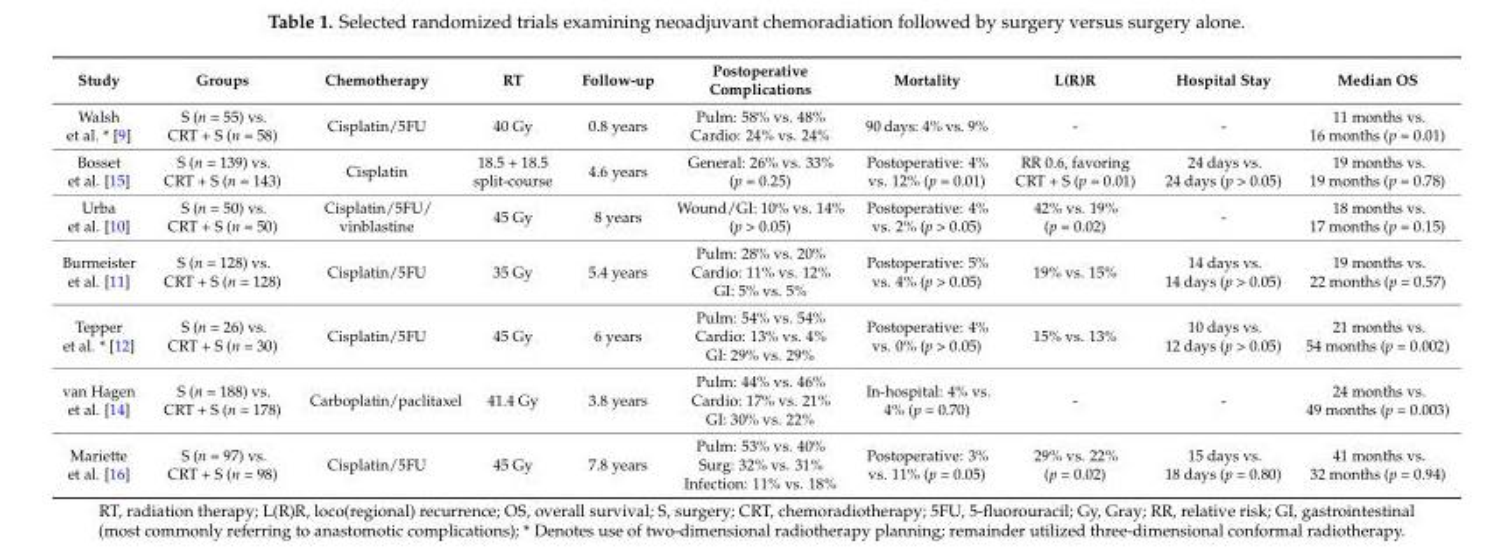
<table><thead><tr><td>Study</td><td>Groups</td><td>Chemotherapy</td><td>RT</td><td>Follow-up</td><td>Postoperative Complications</td><td>Mortality</td><td>L(R)R</td><td>Hospital Stay</td><td>Median OS</td></tr></thead><tbody><tr><td>Walsh et al. * [9]</td><td>S (n = 55) vs. CRT + S (n = 58)</td><td>Cisplatin/5FU</td><td>40 Gy</td><td>0.8 years</td><td>Pulm: 58% vs. 48% Cardio: 24% vs. 24%</td><td>90 days: 4% vs. 9%</td><td>-</td><td>-</td><td>11 months vs. 16 months (p = 0.01)</td></tr><tr><td>Bosset et al. [15]</td><td>S (n = 139) vs. CRT + S (n = 143)</td><td>Cisplatin</td><td>18.5 + 18.5 split-course</td><td>4.6 years</td><td>General: 26% vs. 33% (p = 0.25)</td><td>Postoperative: 4% vs. 12% (p = 0.01)</td><td>RR 0.6, favoring CRT + S (p = 0.01)</td><td>24 days vs. 24 days (p &gt; 0.05)</td><td>19 months vs. 19 months (p = 0.78)</td></tr><tr><td>Urba et al. [10]</td><td>S (n = 50) vs. CRT + S (n = 50)</td><td>Cisplatin/5FU/ vinblastine</td><td>45 Gy</td><td>8 years</td><td>Wound/GI: 10% vs. 14% (p &gt; 0.05)</td><td>Postoperative: 4% vs. 2% (p &gt; 0.05)</td><td>42% vs. 19% (p = 0.02)</td><td>-</td><td>18 months vs. 17 months (p = 0.15)</td></tr><tr><td>Burmeister et al. [11]</td><td>S (n = 128) vs. CRT + S (n = 128)</td><td>Cisplatin/5FU</td><td>35 Gy</td><td>5.4 years</td><td>Pulm: 28% vs. 20% Cardio: 11% vs. 12% GI: 5% vs. 5%</td><td>Postoperative: 5% vs. 4% (p &gt; 0.05)</td><td>19% vs. 15%</td><td>14 days vs. 14 days (p &gt; 0.05)</td><td>19 months vs. 22 months (p = 0.57)</td></tr><tr><td>Tepper et al. * [12]</td><td>S (n = 26) vs. CRT + S (n = 30)</td><td>Cisplatin/5FU</td><td>45 Gy</td><td>6 years</td><td>Pulm: 54% vs. 54% Cardio: 13% vs. 4% GI: 29% vs. 29%</td><td>Postoperative: 4% vs. 0% (p &gt; 0.05)</td><td>15% vs. 13%</td><td>10 days vs. 12 days (p &gt; 0.05)</td><td>21 months vs. 54 months (p = 0.002)</td></tr><tr><td>van Hagen et al. [14]</td><td>S (n = 188) vs. CRT + S (n = 178)</td><td>Carboplatin/paclitaxel</td><td>41.4 Gy</td><td>3.8 years</td><td>Pulm: 44% vs. 46% Cardio: 17% vs. 21% GI: 30% vs. 22%</td><td>In-hospital: 4% vs. 4% (p = 0.70)</td><td>-</td><td>-</td><td>24 months vs. 49 months (p = 0.003)</td></tr><tr><td>Mariette et al. [16]</td><td>S (n = 97) vs. CRT + S (n = 98)</td><td>Cisplatin/5FU</td><td>45 Gy</td><td>7.8 years</td><td>Pulm: 53% vs. 40% Surg: 32% vs. 31% Infection: 11% vs. 18%</td><td>Postoperative: 3% vs. 11% (p = 0.05)</td><td>29% vs. 22% (p = 0.02)</td><td>15 days vs. 18 days (p = 0.80)</td><td>41 months vs. 32 months (p = 0.94)</td></tr></tbody></table>